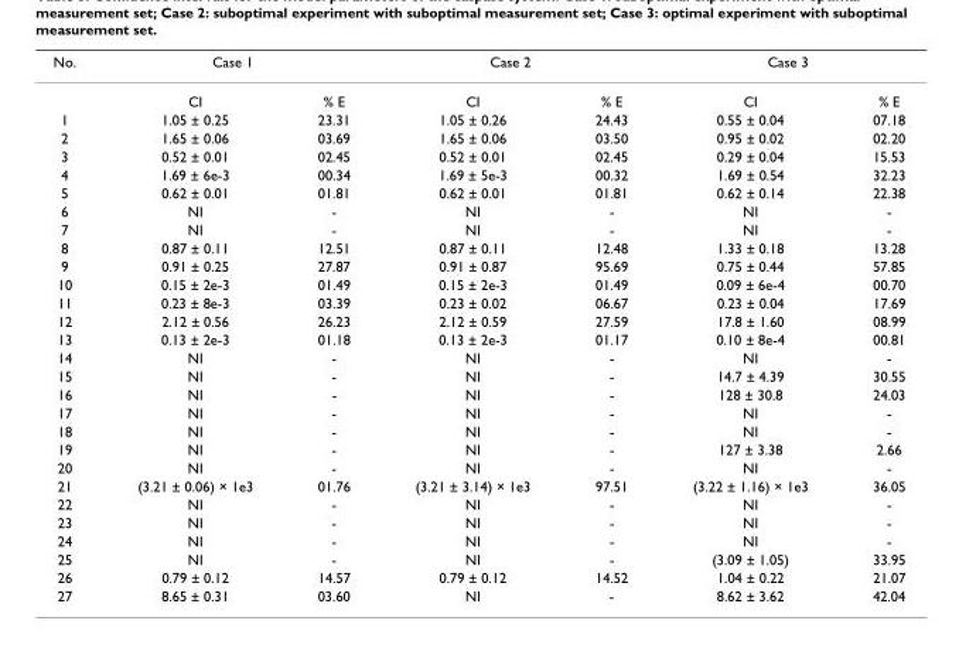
<table><thead><tr><td rowspan="2">No.</td><td colspan="2">Case 1</td><td colspan="2">Case 2</td><td colspan="2">Case 3</td></tr><tr><td>CI</td><td>% E</td><td>CI</td><td>% E</td><td>CI</td><td>% E</td></tr></thead><tbody><tr><td>1</td><td>1.05 ± 0.25</td><td>23.31</td><td>1.05 ± 0.26</td><td>24.43</td><td>0.55 ± 0.04</td><td>07.18</td></tr><tr><td>2</td><td>1.65 ± 0.06</td><td>03.69</td><td>1.65 ± 0.06</td><td>03.50</td><td>0.95 ± 0.02</td><td>02.20</td></tr><tr><td>3</td><td>0.52 ± 0.01</td><td>02.45</td><td>0.52 ± 0.01</td><td>02.45</td><td>0.29 ± 0.04</td><td>15.53</td></tr><tr><td>4</td><td>1.69 ± 6e-3</td><td>00.34</td><td>1.69 ± 5e-3</td><td>00.32</td><td>1.69 ± 0.54</td><td>32.23</td></tr><tr><td>5</td><td>0.62 ± 0.01</td><td>01.81</td><td>0.62 ± 0.01</td><td>01.81</td><td>0.62 ± 0.14</td><td>22.38</td></tr><tr><td>6</td><td>NI</td><td>-</td><td>NI</td><td>-</td><td>NI</td><td>-</td></tr><tr><td>7</td><td>NI</td><td>-</td><td>NI</td><td>-</td><td>NI</td><td>-</td></tr><tr><td>8</td><td>0.87 ± 0.11</td><td>12.51</td><td>0.87 ± 0.11</td><td>12.48</td><td>1.33 ± 0.18</td><td>13.28</td></tr><tr><td>9</td><td>0.91 ± 0.25</td><td>27.87</td><td>0.91 ± 0.87</td><td>95.69</td><td>0.75 ± 0.44</td><td>57.85</td></tr><tr><td>10</td><td>0.15 ± 2e-3</td><td>01.49</td><td>0.15 ± 2e-3</td><td>01.49</td><td>0.09 ± 6e-4</td><td>00.70</td></tr><tr><td>11</td><td>0.23 ± 8e-3</td><td>03.39</td><td>0.23 ± 0.02</td><td>06.67</td><td>0.23 ± 0.04</td><td>17.69</td></tr><tr><td>12</td><td>2.12 ± 0.56</td><td>26.23</td><td>2.12 ± 0.59</td><td>27.59</td><td>17.8 ± 1.60</td><td>08.99</td></tr><tr><td>13</td><td>0.13 ± 2e-3</td><td>01.18</td><td>0.13 ± 2e-3</td><td>01.17</td><td>0.10 ± 8e-4</td><td>00.81</td></tr><tr><td>14</td><td>NI</td><td>-</td><td>NI</td><td>-</td><td>NI</td><td>-</td></tr><tr><td>15</td><td>NI</td><td>-</td><td>NI</td><td>-</td><td>14.7 ± 4.39</td><td>30.55</td></tr><tr><td>16</td><td>NI</td><td>-</td><td>NI</td><td>-</td><td>128 ± 30.8</td><td>24.03</td></tr><tr><td>17</td><td>NI</td><td>-</td><td>NI</td><td>-</td><td>NI</td><td>-</td></tr><tr><td>18</td><td>NI</td><td>-</td><td>NI</td><td>-</td><td>NI</td><td>-</td></tr><tr><td>19</td><td>NI</td><td>-</td><td>NI</td><td>-</td><td>127 ± 3.38</td><td>2.66</td></tr><tr><td>20</td><td>NI</td><td>-</td><td>NI</td><td>-</td><td>NI</td><td>-</td></tr><tr><td>21</td><td>(3.21 ± 0.06) × 1e3</td><td>01.76</td><td>(3.21 ± 3.14) × 1e3</td><td>97.51</td><td>(3.22 ± 1.16) × 1e3</td><td>36.05</td></tr><tr><td>22</td><td>NI</td><td>-</td><td>NI</td><td>-</td><td>NI</td><td>-</td></tr><tr><td>23</td><td>NI</td><td>-</td><td>NI</td><td>-</td><td>NI</td><td>-</td></tr><tr><td>24</td><td>NI</td><td>-</td><td>NI</td><td>-</td><td>NI</td><td>-</td></tr><tr><td>25</td><td>NI</td><td>-</td><td>NI</td><td>-</td><td>(3.09 ± 1.05)</td><td>33.95</td></tr><tr><td>26</td><td>0.79 ± 0.12</td><td>14.57</td><td>0.79 ± 0.12</td><td>14.52</td><td>1.04 ± 0.22</td><td>21.07</td></tr><tr><td>27</td><td>8.65 ± 0.31</td><td>03.60</td><td>NI</td><td>-</td><td>8.62 ± 3.62</td><td>42.04</td></tr></tbody></table>